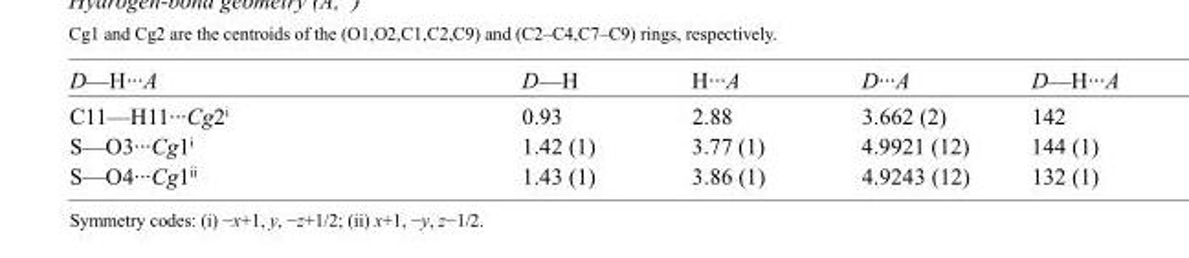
<table><tbody><tr><td>D—H···A</td><td>D—H</td><td>H···A</td><td>D···A</td><td>D—H···A</td></tr><tr><td>C11—H11···Cg2<sup>i</sup></td><td>0.93</td><td>2.88</td><td>3.662 (2)</td><td>142</td></tr><tr><td>S—O3···Cg1<sup>i</sup></td><td>1.42 (1)</td><td>3.77 (1)</td><td>4.9921 (12)</td><td>144 (1)</td></tr><tr><td>S—O4···Cg1<sup>ii</sup></td><td>1.43 (1)</td><td>3.86 (1)</td><td>4.9243 (12)</td><td>132 (1)</td></tr></tbody></table>